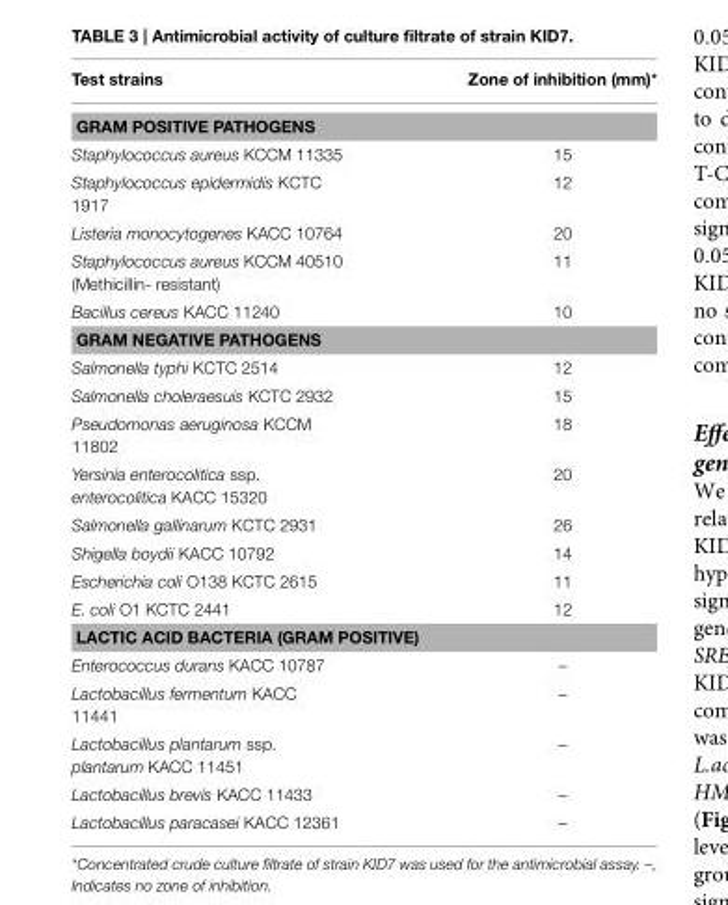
<table><thead><tr><td>Test strains</td><td>Zone of inhibition (mm)*</td></tr></thead><tbody><tr><td colspan="2">GRAM POSITIVE PATHOGENS</td></tr><tr><td>Staphylococcus aureus KCCM 11335</td><td>15</td></tr><tr><td>Staphylococcus epidermidis KCTC 1917</td><td>12</td></tr><tr><td>Listeria monocytogenes KACC 10764</td><td>20</td></tr><tr><td>Staphylococcus aureus KCCM 40510 (Methicillin- resistant)</td><td>11</td></tr><tr><td>Bacillus cereus KACC 11240</td><td>10</td></tr><tr><td colspan="2">GRAM NEGATIVE PATHOGENS</td></tr><tr><td>Salmonella typhi KCTC 2514</td><td>12</td></tr><tr><td>Salmonella choleraesuis KCTC 2932</td><td>15</td></tr><tr><td>Pseudomonas aeruginosa KCCM 11802</td><td>18</td></tr><tr><td>Yersinia enterocolitica ssp. enterocolitica KACC 15320</td><td>20</td></tr><tr><td>Salmonella gallinarum KCTC 2931</td><td>26</td></tr><tr><td>Shigella boydii KACC 10792</td><td>14</td></tr><tr><td>Escherichia coli O138 KCTC 2615</td><td>11</td></tr><tr><td>E. coli O1 KCTC 2441</td><td>12</td></tr><tr><td colspan="2">LACTIC ACID BACTERIA (GRAM POSITIVE)</td></tr><tr><td>Enterococcus durans KACC 10787</td><td>–</td></tr><tr><td>Lactobacillus fermentum KACC 11441</td><td>–</td></tr><tr><td>Lactobacillus plantarum ssp. plantarum KACC 11451</td><td>–</td></tr><tr><td>Lactobacillus brevis KACC 11433</td><td>–</td></tr><tr><td>Lactobacillus paracasei KACC 12361</td><td>–</td></tr></tbody></table>